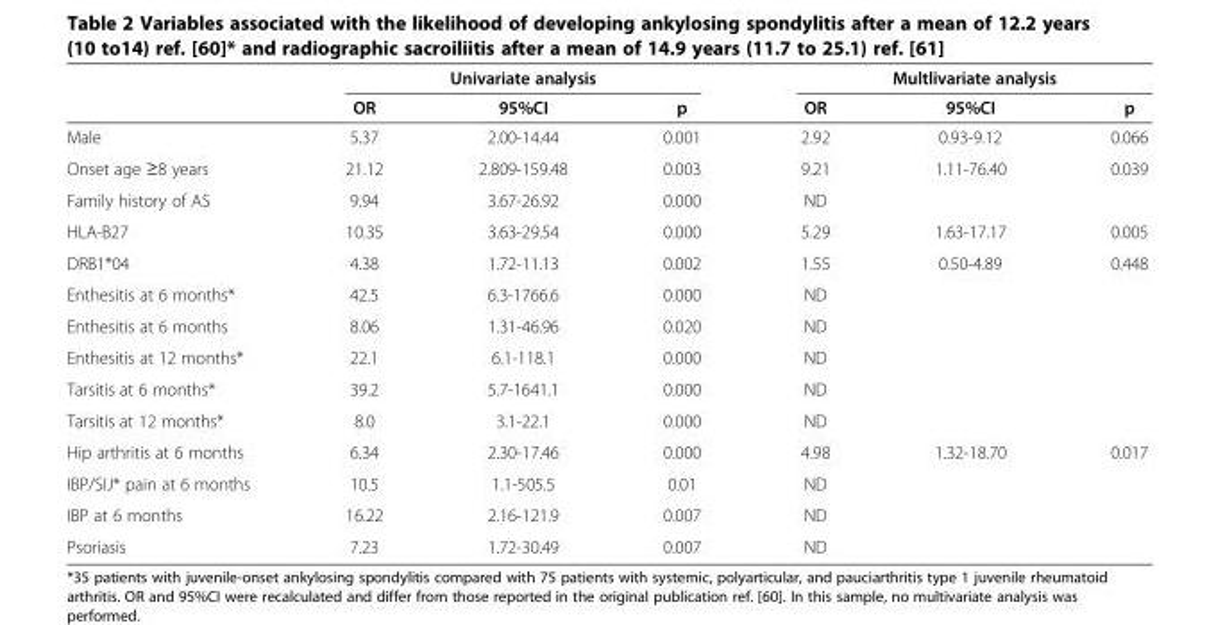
<table><thead><tr><td rowspan="2"></td><td colspan="3">Univariate analysis</td><td colspan="3">Multlivariate analysis</td></tr><tr><td>OR</td><td>95%CI</td><td>p</td><td>OR</td><td>95%CI</td><td>p</td></tr></thead><tbody><tr><td>Male</td><td>5.37</td><td>2.00-14.44</td><td>0.001</td><td>2.92</td><td>0.93-9.12</td><td>0.066</td></tr><tr><td>Onset age ≥8 years</td><td>21.12</td><td>2.809-159.48</td><td>0.003</td><td>9.21</td><td>1.11-76.40</td><td>0.039</td></tr><tr><td>Family history of AS</td><td>9.94</td><td>3.67-26.92</td><td>0.000</td><td>ND</td><td></td><td></td></tr><tr><td>HLA-B27</td><td>10.35</td><td>3.63-29.54</td><td>0.000</td><td>5.29</td><td>1.63-17.17</td><td>0.005</td></tr><tr><td>DRB1*04</td><td>4.38</td><td>1.72-11.13</td><td>0.002</td><td>1.55</td><td>0.50-4.89</td><td>0.448</td></tr><tr><td>Enthesitis at 6 months*</td><td>42.5</td><td>6.3-1766.6</td><td>0.000</td><td>ND</td><td></td><td></td></tr><tr><td>Enthesitis at 6 months</td><td>8.06</td><td>1.31-46.96</td><td>0.020</td><td>ND</td><td></td><td></td></tr><tr><td>Enthesitis at 12 months*</td><td>22.1</td><td>6.1-118.1</td><td>0.000</td><td>ND</td><td></td><td></td></tr><tr><td>Tarsitis at 6 months*</td><td>39.2</td><td>5.7-1641.1</td><td>0.000</td><td>ND</td><td></td><td></td></tr><tr><td>Tarsitis at 12 months*</td><td>8.0</td><td>3.1-22.1</td><td>0.000</td><td>ND</td><td></td><td></td></tr><tr><td>Hip arthritis at 6 months</td><td>6.34</td><td>2.30-17.46</td><td>0.000</td><td>4.98</td><td>1.32-18.70</td><td>0.017</td></tr><tr><td>IBP/SIJ* pain at 6 months</td><td>10.5</td><td>1.1-505.5</td><td>0.01</td><td>ND</td><td></td><td></td></tr><tr><td>IBP at 6 months</td><td>16.22</td><td>2.16-121.9</td><td>0.007</td><td>ND</td><td></td><td></td></tr><tr><td>Psoriasis</td><td>7.23</td><td>1.72-30.49</td><td>0.007</td><td>ND</td><td></td><td></td></tr></tbody></table>